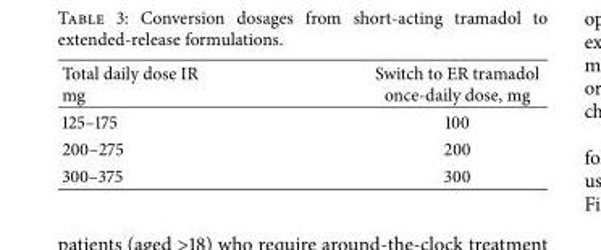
<table><thead><tr><td>Total daily dose IR mg</td><td>Switch to ER tramadol once-daily dose, mg</td></tr></thead><tbody><tr><td>125–175</td><td>100</td></tr><tr><td>200–275</td><td>200</td></tr><tr><td>300–375</td><td>300</td></tr></tbody></table>